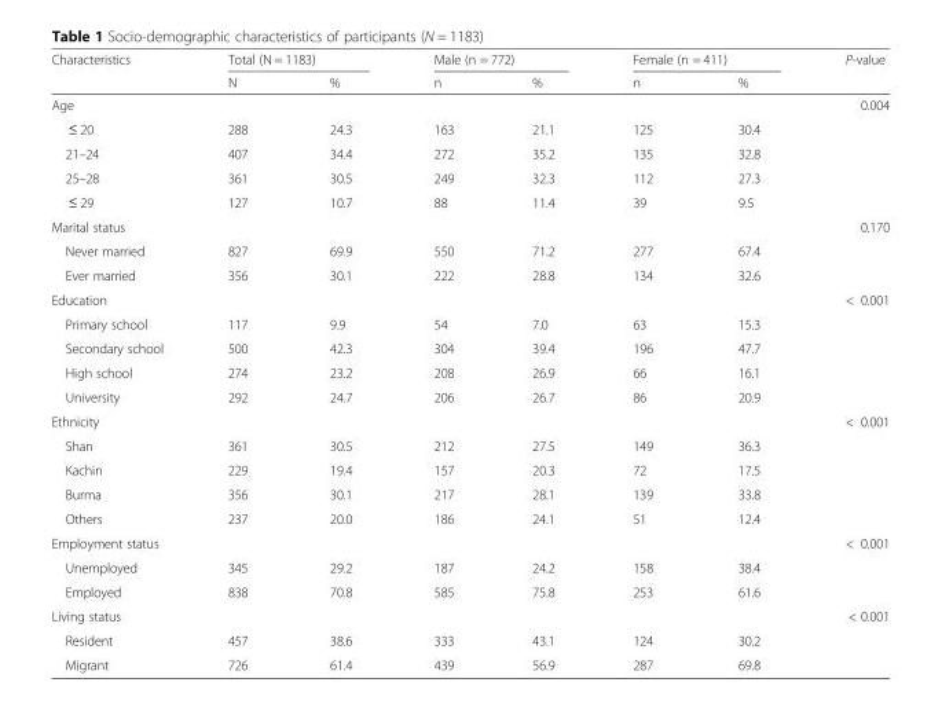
<table><thead><tr><td rowspan="2">Characteristics</td><td colspan="2">Total (N = 1183)</td><td colspan="2">Male (n = 772)</td><td colspan="2">Female (n = 411)</td><td rowspan="2">P-value</td></tr><tr><td>N</td><td>%</td><td>n</td><td>%</td><td>n</td><td>%</td></tr></thead><tbody><tr><td>Age</td><td></td><td></td><td></td><td></td><td></td><td></td><td>0.004</td></tr><tr><td>≤ 20</td><td>288</td><td>24.3</td><td>163</td><td>21.1</td><td>125</td><td>30.4</td><td></td></tr><tr><td>21–24</td><td>407</td><td>34.4</td><td>272</td><td>35.2</td><td>135</td><td>32.8</td><td></td></tr><tr><td>25–28</td><td>361</td><td>30.5</td><td>249</td><td>32.3</td><td>112</td><td>27.3</td><td></td></tr><tr><td>≤ 29</td><td>127</td><td>10.7</td><td>88</td><td>11.4</td><td>39</td><td>9.5</td><td></td></tr><tr><td>Marital status</td><td></td><td></td><td></td><td></td><td></td><td></td><td>0.170</td></tr><tr><td>Never married</td><td>827</td><td>69.9</td><td>550</td><td>71.2</td><td>277</td><td>67.4</td><td></td></tr><tr><td>Ever married</td><td>356</td><td>30.1</td><td>222</td><td>28.8</td><td>134</td><td>32.6</td><td></td></tr><tr><td>Education</td><td></td><td></td><td></td><td></td><td></td><td></td><td>&lt; 0.001</td></tr><tr><td>Primary school</td><td>117</td><td>9.9</td><td>54</td><td>7.0</td><td>63</td><td>15.3</td><td></td></tr><tr><td>Secondary school</td><td>500</td><td>42.3</td><td>304</td><td>39.4</td><td>196</td><td>47.7</td><td></td></tr><tr><td>High school</td><td>274</td><td>23.2</td><td>208</td><td>26.9</td><td>66</td><td>16.1</td><td></td></tr><tr><td>University</td><td>292</td><td>24.7</td><td>206</td><td>26.7</td><td>86</td><td>20.9</td><td></td></tr><tr><td>Ethnicity</td><td></td><td></td><td></td><td></td><td></td><td></td><td>&lt; 0.001</td></tr><tr><td>Shan</td><td>361</td><td>30.5</td><td>212</td><td>27.5</td><td>149</td><td>36.3</td><td></td></tr><tr><td>Kachin</td><td>229</td><td>19.4</td><td>157</td><td>20.3</td><td>72</td><td>17.5</td><td></td></tr><tr><td>Burma</td><td>356</td><td>30.1</td><td>217</td><td>28.1</td><td>139</td><td>33.8</td><td></td></tr><tr><td>Others</td><td>237</td><td>20.0</td><td>186</td><td>24.1</td><td>51</td><td>12.4</td><td></td></tr><tr><td>Employment status</td><td></td><td></td><td></td><td></td><td></td><td></td><td>&lt; 0.001</td></tr><tr><td>Unemployed</td><td>345</td><td>29.2</td><td>187</td><td>24.2</td><td>158</td><td>38.4</td><td></td></tr><tr><td>Employed</td><td>838</td><td>70.8</td><td>585</td><td>75.8</td><td>253</td><td>61.6</td><td></td></tr><tr><td>Living status</td><td></td><td></td><td></td><td></td><td></td><td></td><td>&lt; 0.001</td></tr><tr><td>Resident</td><td>457</td><td>38.6</td><td>333</td><td>43.1</td><td>124</td><td>30.2</td><td></td></tr><tr><td>Migrant</td><td>726</td><td>61.4</td><td>439</td><td>56.9</td><td>287</td><td>69.8</td><td></td></tr></tbody></table>